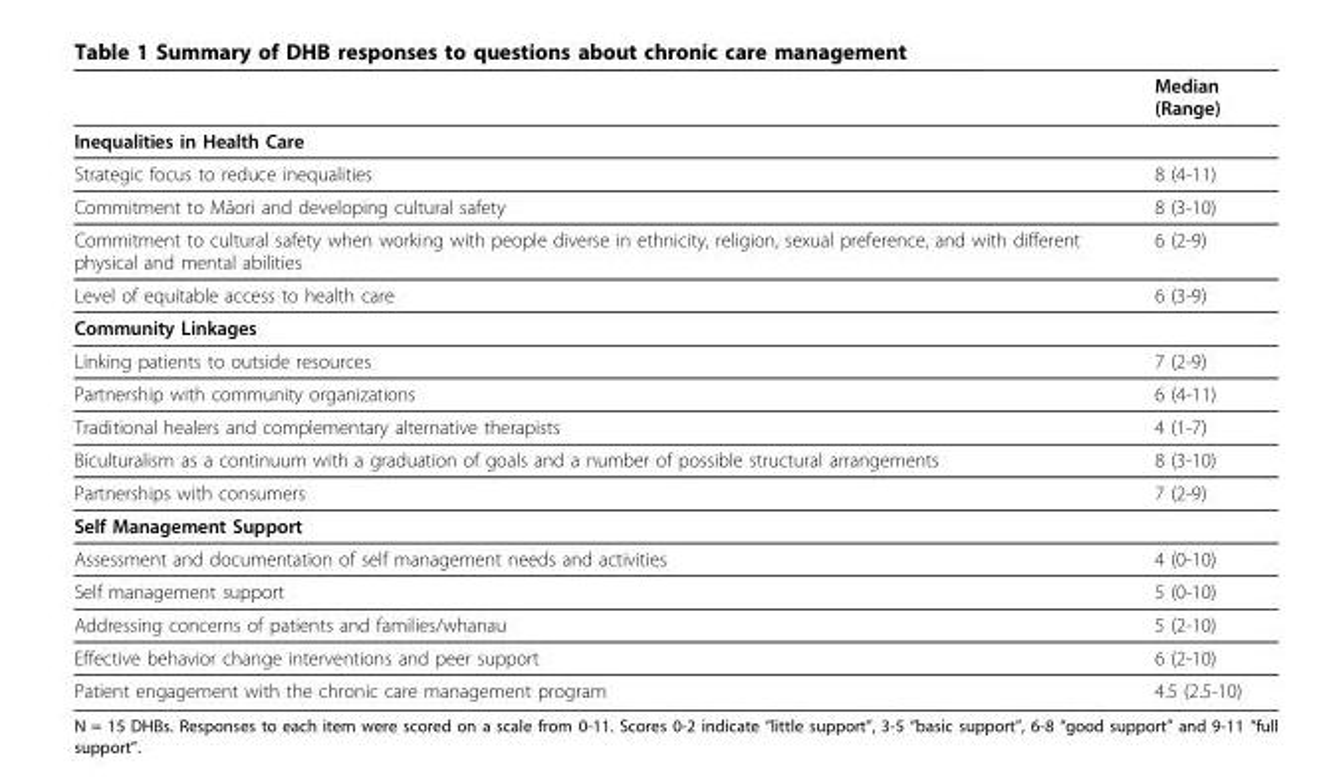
<table><thead><tr><td></td><td>Median (Range)</td></tr></thead><tbody><tr><td colspan="2">Inequalities in Health Care</td></tr><tr><td>Strategic focus to reduce inequalities</td><td>8 (4-11)</td></tr><tr><td>Commitment to Māori and developing cultural safety</td><td>8 (3-10)</td></tr><tr><td>Commitment to cultural safety when working with people diverse in ethnicity, religion, sexual preference, and with different physical and mental abilities</td><td>6 (2-9)</td></tr><tr><td>Level of equitable access to health care</td><td>6 (3-9)</td></tr><tr><td colspan="2">Community Linkages</td></tr><tr><td>Linking patients to outside resources</td><td>7 (2-9)</td></tr><tr><td>Partnership with community organizations</td><td>6 (4-11)</td></tr><tr><td>Traditional healers and complementary alternative therapists</td><td>4 (1-7)</td></tr><tr><td>Biculturalism as a continuum with a graduation of goals and a number of possible structural arrangements</td><td>8 (3-10)</td></tr><tr><td>Partnerships with consumers</td><td>7 (2-9)</td></tr><tr><td colspan="2">Self Management Support</td></tr><tr><td>Assessment and documentation of self management needs and activities</td><td>4 (0-10)</td></tr><tr><td>Self management support</td><td>5 (0-10)</td></tr><tr><td>Addressing concerns of patients and families/whanau</td><td>5 (2-10)</td></tr><tr><td>Effective behavior change interventions and peer support</td><td>6 (2-10)</td></tr><tr><td>Patient engagement with the chronic care management program</td><td>4.5 (2.5-10)</td></tr></tbody></table>